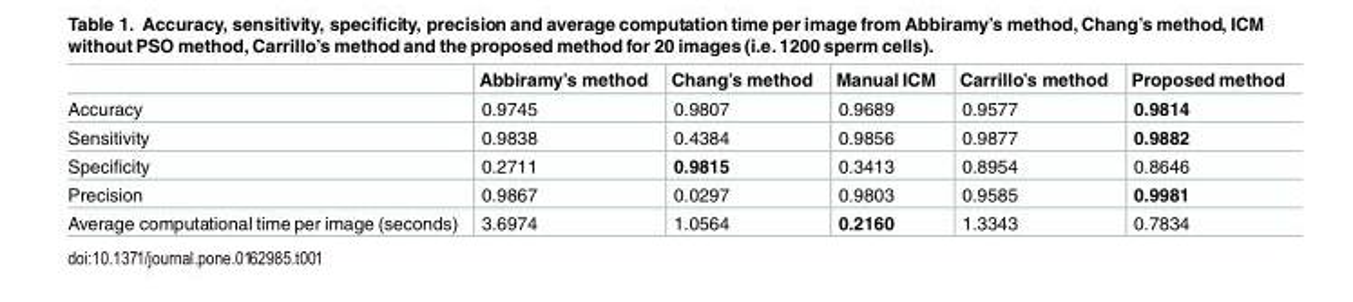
<table><thead><tr><td></td><td>Abbiramy’s method</td><td>Chang’s method</td><td>Manual ICM</td><td>Carrillo’s method</td><td>Proposed method</td></tr></thead><tbody><tr><td>Accuracy</td><td>0.9745</td><td>0.9807</td><td>0.9689</td><td>0.9577</td><td>0.9814</td></tr><tr><td>Sensitivity</td><td>0.9838</td><td>0.4384</td><td>0.9856</td><td>0.9877</td><td>0.9882</td></tr><tr><td>Specificity</td><td>0.2711</td><td>0.9815</td><td>0.3413</td><td>0.8954</td><td>0.8646</td></tr><tr><td>Precision</td><td>0.9867</td><td>0.0297</td><td>0.9803</td><td>0.9585</td><td>0.9981</td></tr><tr><td>Average computational time per image (seconds)</td><td>3.6974</td><td>1.0564</td><td>0.2160</td><td>1.3343</td><td>0.7834</td></tr></tbody></table>